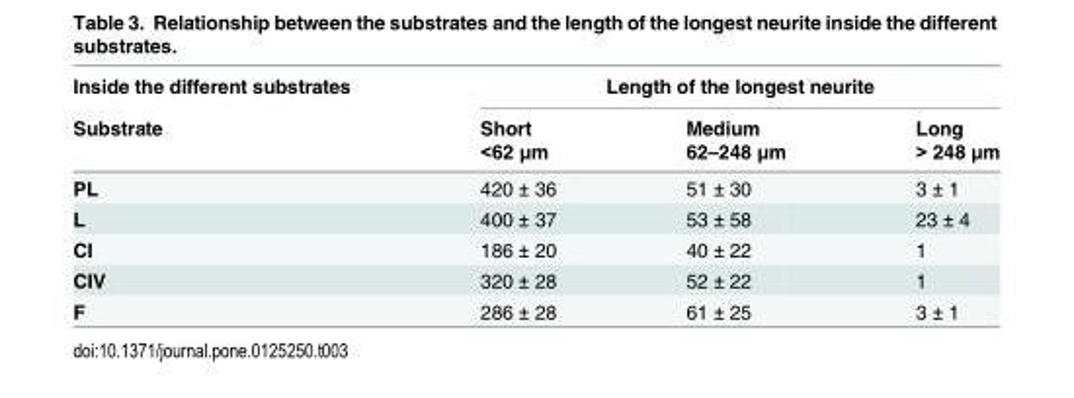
<table><thead><tr><td rowspan="3">Inside the different substrates Substrate</td><td colspan="3">Length of the longest neurite</td></tr><tr><td rowspan="2">Short &lt;62 μm</td><td rowspan="2">Medium 62–248 μm</td><td rowspan="2">Long &gt; 248 μm</td></tr><tr></tr></thead><tbody><tr><td>PL</td><td>420 ± 36</td><td>51 ± 30</td><td>3 ± 1</td></tr><tr><td>L</td><td>400 ± 37</td><td>53 ± 58</td><td>23 ± 4</td></tr><tr><td>CI</td><td>186 ± 20</td><td>40 ± 22</td><td>1</td></tr><tr><td>CIV</td><td>320 ± 28</td><td>52 ± 22</td><td>1</td></tr><tr><td>F</td><td>286 ± 28</td><td>61 ± 25</td><td>3 ± 1</td></tr></tbody></table>